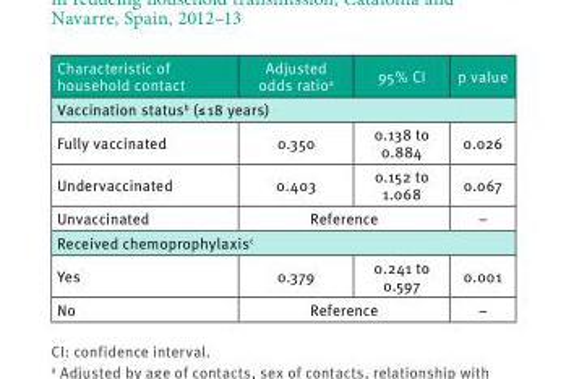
<table><thead><tr><td>Characteristic of household contact</td><td>Adjusted odds ratio<sup>a</sup></td><td>95% CI</td><td>p value</td></tr></thead><tbody><tr><td colspan="4">Vaccination status<sup>b</sup> (≤ 18 years)</td></tr><tr><td>Fully vaccinated</td><td>0.350</td><td>0.138 to 0.884</td><td>0.026</td></tr><tr><td>Undervaccinated</td><td>0.403</td><td>0.152 to 1.068</td><td>0.067</td></tr><tr><td>Unvaccinated</td><td colspan="2">Reference</td><td>–</td></tr><tr><td colspan="4">Received chemoprophylaxis<sup>c</sup></td></tr><tr><td>Yes</td><td>0.379</td><td>0.241 to 0.597</td><td>0.001</td></tr><tr><td>No</td><td colspan="2">Reference</td><td>–</td></tr></tbody></table>